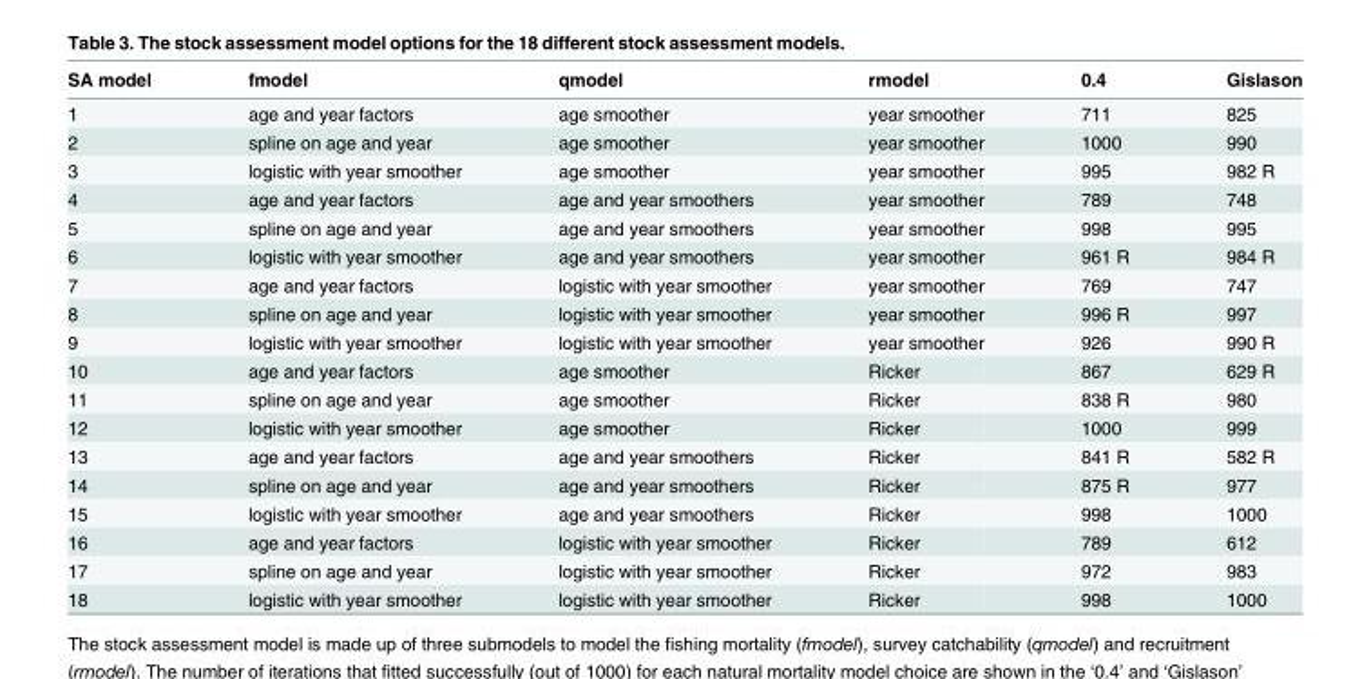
<table><thead><tr><td>SA model</td><td>fmodel</td><td>qmodel</td><td>rmodel</td><td>0.4</td><td>Gislason</td></tr></thead><tbody><tr><td>1</td><td>age and year factors</td><td>age smoother</td><td>year smoother</td><td>711</td><td>825</td></tr><tr><td>2</td><td>spline on age and year</td><td>age smoother</td><td>year smoother</td><td>1000</td><td>990</td></tr><tr><td>3</td><td>logistic with year smoother</td><td>age smoother</td><td>year smoother</td><td>995</td><td>982 R</td></tr><tr><td>4</td><td>age and year factors</td><td>age and year smoothers</td><td>year smoother</td><td>789</td><td>748</td></tr><tr><td>5</td><td>spline on age and year</td><td>age and year smoothers</td><td>year smoother</td><td>998</td><td>995</td></tr><tr><td>6</td><td>logistic with year smoother</td><td>age and year smoothers</td><td>year smoother</td><td>961 R</td><td>984 R</td></tr><tr><td>7</td><td>age and year factors</td><td>logistic with year smoother</td><td>year smoother</td><td>769</td><td>747</td></tr><tr><td>8</td><td>spline on age and year</td><td>logistic with year smoother</td><td>year smoother</td><td>996 R</td><td>997</td></tr><tr><td>9</td><td>logistic with year smoother</td><td>logistic with year smoother</td><td>year smoother</td><td>926</td><td>990 R</td></tr><tr><td>10</td><td>age and year factors</td><td>age smoother</td><td>Ricker</td><td>867</td><td>629 R</td></tr><tr><td>11</td><td>spline on age and year</td><td>age smoother</td><td>Ricker</td><td>838 R</td><td>980</td></tr><tr><td>12</td><td>logistic with year smoother</td><td>age smoother</td><td>Ricker</td><td>1000</td><td>999</td></tr><tr><td>13</td><td>age and year factors</td><td>age and year smoothers</td><td>Ricker</td><td>841 R</td><td>582 R</td></tr><tr><td>14</td><td>spline on age and year</td><td>age and year smoothers</td><td>Ricker</td><td>875 R</td><td>977</td></tr><tr><td>15</td><td>logistic with year smoother</td><td>age and year smoothers</td><td>Ricker</td><td>998</td><td>1000</td></tr><tr><td>16</td><td>age and year factors</td><td>logistic with year smoother</td><td>Ricker</td><td>789</td><td>612</td></tr><tr><td>17</td><td>spline on age and year</td><td>logistic with year smoother</td><td>Ricker</td><td>972</td><td>983</td></tr><tr><td>18</td><td>logistic with year smoother</td><td>logistic with year smoother</td><td>Ricker</td><td>998</td><td>1000</td></tr></tbody></table>